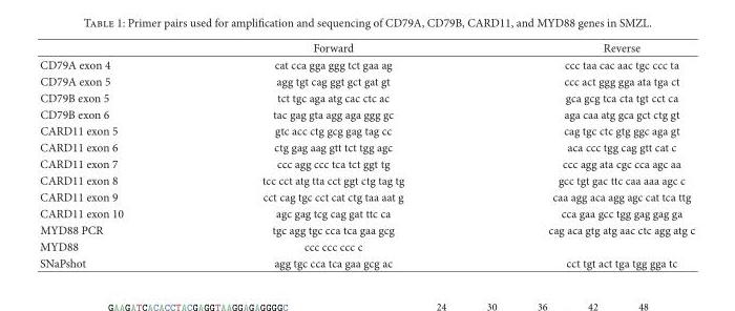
<table><thead><tr><td></td><td>Forward</td><td>Reverse</td></tr></thead><tbody><tr><td>CD79A exon 4</td><td>cat cca gga ggg tct gaa ag</td><td>ccc taa cac aac tgc ccc ta</td></tr><tr><td>CD79A exon 5</td><td>agg tgt cag ggt gct gat gt</td><td>ccc act ggg gga ata tga ct</td></tr><tr><td>CD79B exon 5</td><td>tct tgc aga atg cac ctc ac</td><td>gca gcg tca cta tgt cct ca</td></tr><tr><td>CD79B exon 6</td><td>tac gag gta agg aga ggg gc</td><td>aga caa atg gca gct ctg gt</td></tr><tr><td>CARD11 exon 5</td><td>gtc acc ctg gcg gag tag cc</td><td>cag tgc ctc gtg ggc aga gt</td></tr><tr><td>CARD11 exon 6</td><td>ctg gag aag gtt tct tgg agc</td><td>aca ccc tgg cag gtt cat c</td></tr><tr><td>CARD11 exon 7</td><td>ccc agg ccc tca tct ggt tg</td><td>ccc agg ata cgc cca agc aa</td></tr><tr><td>CARD11 exon 8</td><td>tcc cct atg tta cct ggt ctg tag tg</td><td>gcc tgt gac ttc caa aaa agc c</td></tr><tr><td>CARD11 exon 9</td><td>cct cag tgc cct cat ctg taa aat g</td><td>caa agg aca agg agc cat tca ttg</td></tr><tr><td>CARD11 exon 10</td><td>agc gag tcg cag gat ttc ca</td><td>cca gaa gcc tgg gag gag ga</td></tr><tr><td>MYD88 PCR</td><td>tgc agg tgc cca tca gaa gcg</td><td>cag aca gtg atg aac ctc agg atg c</td></tr><tr><td>MYD88</td><td>ccc ccc ccc c</td><td></td></tr><tr><td>SNaPshot</td><td>agg tgc cca tca gaa gcg ac</td><td>cct tgt act tga tgg gga tc</td></tr></tbody></table>